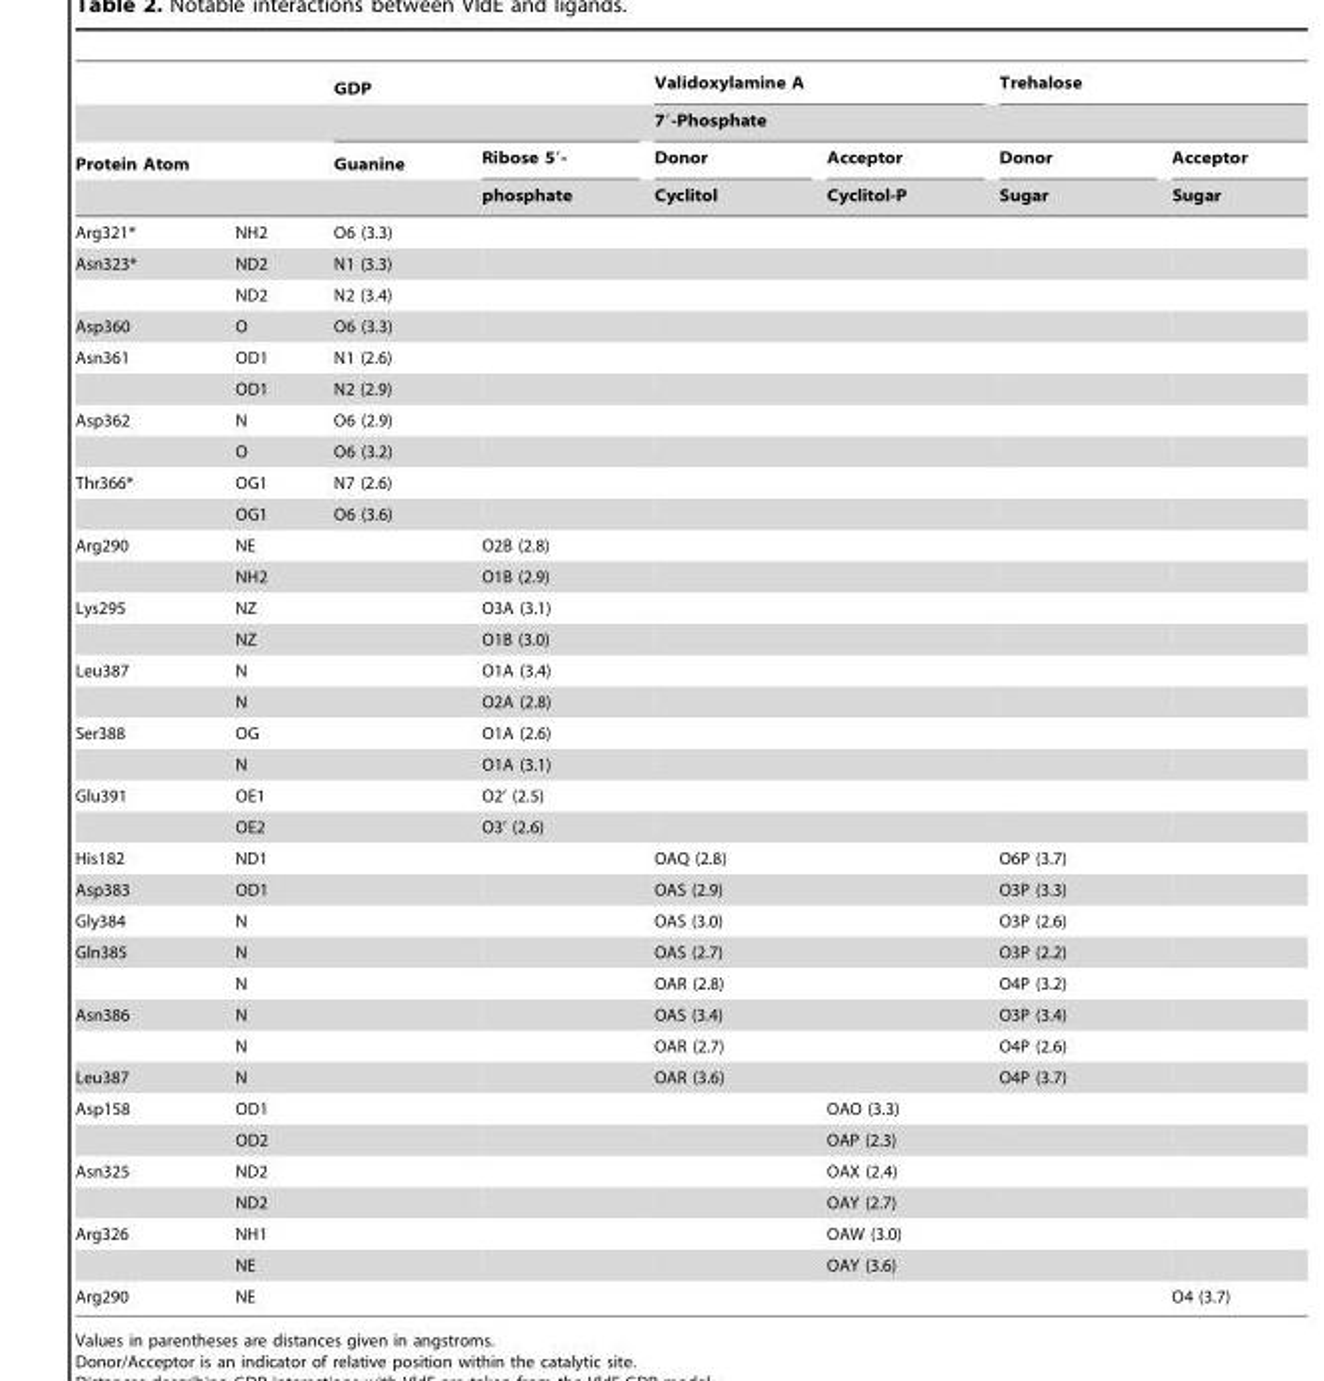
<table><thead><tr><td rowspan="2"></td><td rowspan="2"></td><td colspan="2">GDP</td><td colspan="2">Validoxylamine A</td><td colspan="2">Trehalose</td></tr><tr><td rowspan="3">Guanine</td><td rowspan="3">Ribose 5′- phosphate</td><td colspan="4">7′-Phosphate</td></tr><tr><td colspan="2">Protein Atom</td><td rowspan="2">Donor Cyclitol</td><td rowspan="2">Acceptor Cyclitol-P</td><td rowspan="2">Donor Sugar</td><td rowspan="2">Acceptor Sugar</td></tr><tr><td></td><td></td></tr></thead><tbody><tr><td>Arg321*</td><td>NH2</td><td>O6 (3.3)</td><td></td><td></td><td></td><td></td><td></td></tr><tr><td rowspan="2">Asn323*</td><td>ND2</td><td>N1 (3.3)</td><td></td><td></td><td></td><td></td><td></td></tr><tr><td>ND2</td><td>N2 (3.4)</td><td></td><td></td><td></td><td></td><td></td></tr><tr><td>Asp360</td><td>O</td><td>O6 (3.3)</td><td></td><td></td><td></td><td></td><td></td></tr><tr><td rowspan="2">Asn361</td><td>OD1</td><td>N1 (2.6)</td><td></td><td></td><td></td><td></td><td></td></tr><tr><td>OD1</td><td>N2 (2.9)</td><td></td><td></td><td></td><td></td><td></td></tr><tr><td rowspan="2">Asp362</td><td>N</td><td>O6 (2.9)</td><td></td><td></td><td></td><td></td><td></td></tr><tr><td>O</td><td>O6 (3.2)</td><td></td><td></td><td></td><td></td><td></td></tr><tr><td rowspan="2">Thr366*</td><td>OG1</td><td>N7 (2.6)</td><td></td><td></td><td></td><td></td><td></td></tr><tr><td>OG1</td><td>O6 (3.6)</td><td></td><td></td><td></td><td></td><td></td></tr><tr><td rowspan="2">Arg290</td><td>NE</td><td></td><td>O2B (2.8)</td><td></td><td></td><td></td><td></td></tr><tr><td>NH2</td><td></td><td>O1B (2.9)</td><td></td><td></td><td></td><td></td></tr><tr><td rowspan="2">Lys295</td><td>NZ</td><td></td><td>O3A (3.1)</td><td></td><td></td><td></td><td></td></tr><tr><td>NZ</td><td></td><td>O1B (3.0)</td><td></td><td></td><td></td><td></td></tr><tr><td rowspan="2">Leu387</td><td>N</td><td></td><td>O1A (3.4)</td><td></td><td></td><td></td><td></td></tr><tr><td>N</td><td></td><td>O2A (2.8)</td><td></td><td></td><td></td><td></td></tr><tr><td rowspan="2">Ser388</td><td>OG</td><td></td><td>O1A (2.6)</td><td></td><td></td><td></td><td></td></tr><tr><td>N</td><td></td><td>O1A (3.1)</td><td></td><td></td><td></td><td></td></tr><tr><td rowspan="2">Glu391</td><td>OE1</td><td></td><td>O2’ (2.5)</td><td></td><td></td><td></td><td></td></tr><tr><td>OE2</td><td></td><td>O3’ (2.6)</td><td></td><td></td><td></td><td></td></tr><tr><td>His182</td><td>ND1</td><td></td><td></td><td>OAQ (2.8)</td><td></td><td>O6P (3.7)</td><td></td></tr><tr><td>Asp383</td><td>OD1</td><td></td><td></td><td>OAS (2.9)</td><td></td><td>O3P (3.3)</td><td></td></tr><tr><td>Gly384</td><td>N</td><td></td><td></td><td>OAS (3.0)</td><td></td><td>O3P (2.6)</td><td></td></tr><tr><td rowspan="2">Gln385</td><td>N</td><td></td><td></td><td>OAS (2.7)</td><td></td><td>O3P (2.2)</td><td></td></tr><tr><td>N</td><td></td><td></td><td>OAR (2.8)</td><td></td><td>O4P (3.2)</td><td></td></tr><tr><td rowspan="2">Asn386</td><td>N</td><td></td><td></td><td>OAS (3.4)</td><td></td><td>O3P (3.4)</td><td></td></tr><tr><td>N</td><td></td><td></td><td>OAR (2.7)</td><td></td><td>O4P (2.6)</td><td></td></tr><tr><td>Leu387</td><td>N</td><td></td><td></td><td>OAR (3.6)</td><td></td><td>O4P (3.7)</td><td></td></tr><tr><td rowspan="2">Asp158</td><td>OD1</td><td></td><td></td><td></td><td>OAO (3.3)</td><td></td><td></td></tr><tr><td>OD2</td><td></td><td></td><td></td><td>OAP (2.3)</td><td></td><td></td></tr><tr><td rowspan="2">Asn325</td><td>ND2</td><td></td><td></td><td></td><td>OAX (2.4)</td><td></td><td></td></tr><tr><td>ND2</td><td></td><td></td><td></td><td>OAY (2.7)</td><td></td><td></td></tr><tr><td rowspan="2">Arg326</td><td>NH1</td><td></td><td></td><td></td><td>OAW (3.0)</td><td></td><td></td></tr><tr><td>NE</td><td></td><td></td><td></td><td>OAY (3.6)</td><td></td><td></td></tr><tr><td>Arg290</td><td>NE</td><td></td><td></td><td></td><td></td><td></td><td>O4 (3.7)</td></tr></tbody></table>